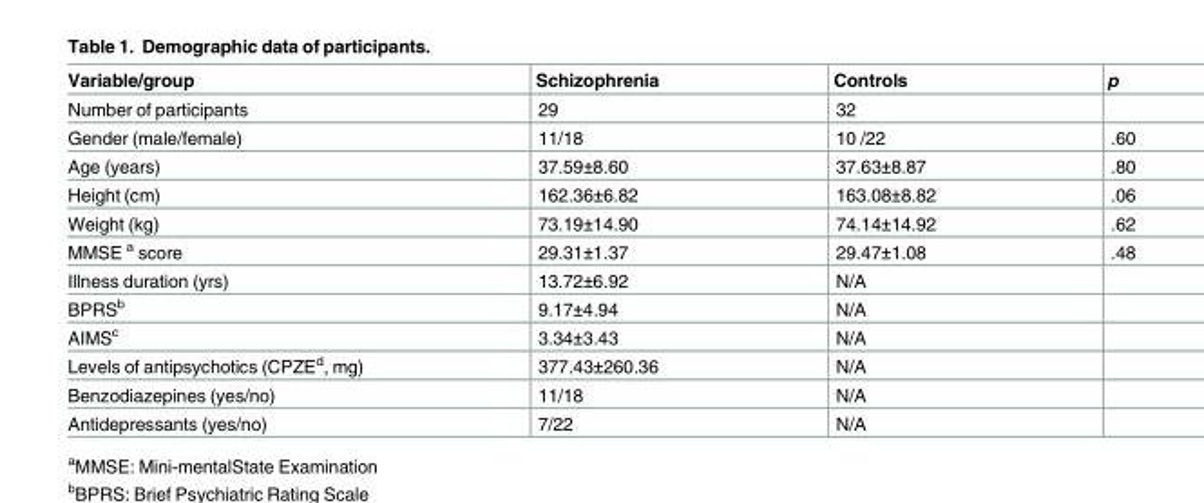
<table><thead><tr><td>Variable/group</td><td>Schizophrenia</td><td>Controls</td><td>p</td></tr></thead><tbody><tr><td>Number of participants</td><td>29</td><td>32</td><td></td></tr><tr><td>Gender (male/female)</td><td>11/18</td><td>10 /22</td><td>.60</td></tr><tr><td>Age (years)</td><td>37.59±8.60</td><td>37.63±8.87</td><td>.80</td></tr><tr><td>Height (cm)</td><td>162.36±6.82</td><td>163.08±8.82</td><td>.06</td></tr><tr><td>Weight (kg)</td><td>73.19±14.90</td><td>74.14±14.92</td><td>.62</td></tr><tr><td>MMSE <sup>a</sup> score</td><td>29.31±1.37</td><td>29.47±1.08</td><td>.48</td></tr><tr><td>Illness duration (yrs)</td><td>13.72±6.92</td><td>N/A</td><td></td></tr><tr><td>BPRS<sup>b</sup></td><td>9.17±4.94</td><td>N/A</td><td></td></tr><tr><td>AIMS<sup>c</sup></td><td>3.34±3.43</td><td>N/A</td><td></td></tr><tr><td>Levels of antipsychotics (CPZE<sup>d</sup>, mg)</td><td>377.43±260.36</td><td>N/A</td><td></td></tr><tr><td>Benzodiazepines (yes/no)</td><td>11/18</td><td>N/A</td><td></td></tr><tr><td>Antidepressants (yes/no)</td><td>7/22</td><td>N/A</td><td></td></tr></tbody></table>